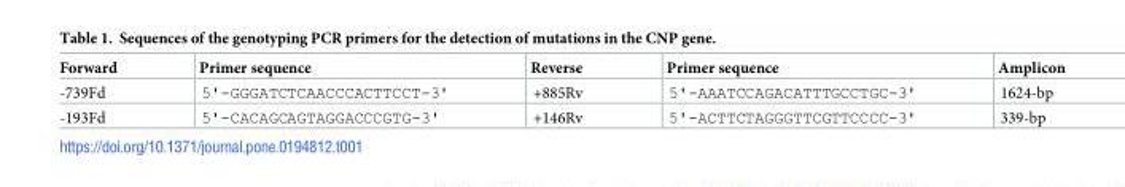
<table><thead><tr><td>Forward</td><td>Primer sequence</td><td>Reverse</td><td>Primer sequence</td><td>Amplicon</td></tr></thead><tbody><tr><td>-739Fd</td><td>5&#x27;-GGGATCTCAACCCACTTCCT-3&#x27;</td><td>+885Rv</td><td>5&#x27;-AAATCCAGACATTTGCCTGC-3&#x27;</td><td>1624-bp</td></tr><tr><td>-193Fd</td><td>5&#x27;-CACAGCAGTAGGACCCGTG-3&#x27;</td><td>+146Rv</td><td>5&#x27;-ACTTCTAGGGTTCGTTCCCC-3&#x27;</td><td>339-bp</td></tr></tbody></table>